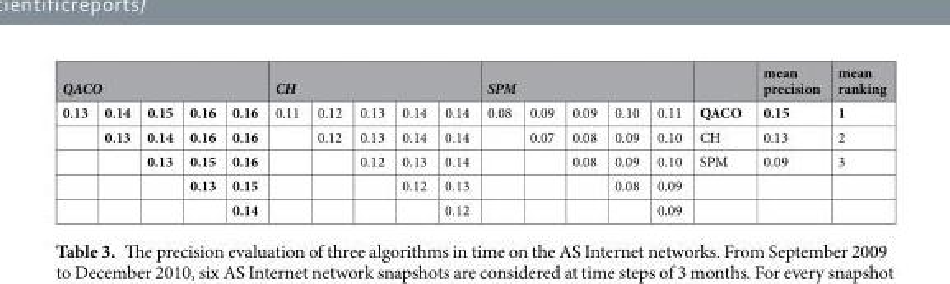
<table><thead><tr><td colspan="5">QACO</td><td colspan="5">CH</td><td colspan="5">SPM</td><td rowspan="2">QACO</td><td rowspan="2">mean precision 0.15</td><td rowspan="2">mean ranking 1</td></tr><tr><td>0.13</td><td>0.14</td><td>0.15</td><td>0.16</td><td>0.16</td><td>0.11</td><td>0.12</td><td>0.13</td><td>0.14</td><td>0.14</td><td>0.08</td><td>0.09</td><td>0.09</td><td>0.10</td><td>0.11</td></tr></thead><tbody><tr><td></td><td>0.13</td><td>0.14</td><td>0.16</td><td>0.16</td><td></td><td>0.12</td><td>0.13</td><td>0.14</td><td>0.14</td><td></td><td>0.07</td><td>0.08</td><td>0.09</td><td>0.10</td><td>CH</td><td>0.13</td><td>2</td></tr><tr><td></td><td></td><td>0.13</td><td>0.15</td><td>0.16</td><td></td><td></td><td>0.12</td><td>0.13</td><td>0.14</td><td></td><td></td><td>0.08</td><td>0.09</td><td>0.10</td><td>SPM</td><td>0.09</td><td>3</td></tr><tr><td></td><td></td><td></td><td>0.13</td><td>0.15</td><td></td><td></td><td></td><td>0.12</td><td>0.13</td><td></td><td></td><td></td><td>0.08</td><td>0.09</td><td></td><td></td><td></td></tr><tr><td></td><td></td><td></td><td></td><td>0.14</td><td></td><td></td><td></td><td></td><td>0.12</td><td></td><td></td><td></td><td></td><td>0.09</td><td></td><td></td><td></td></tr></tbody></table>